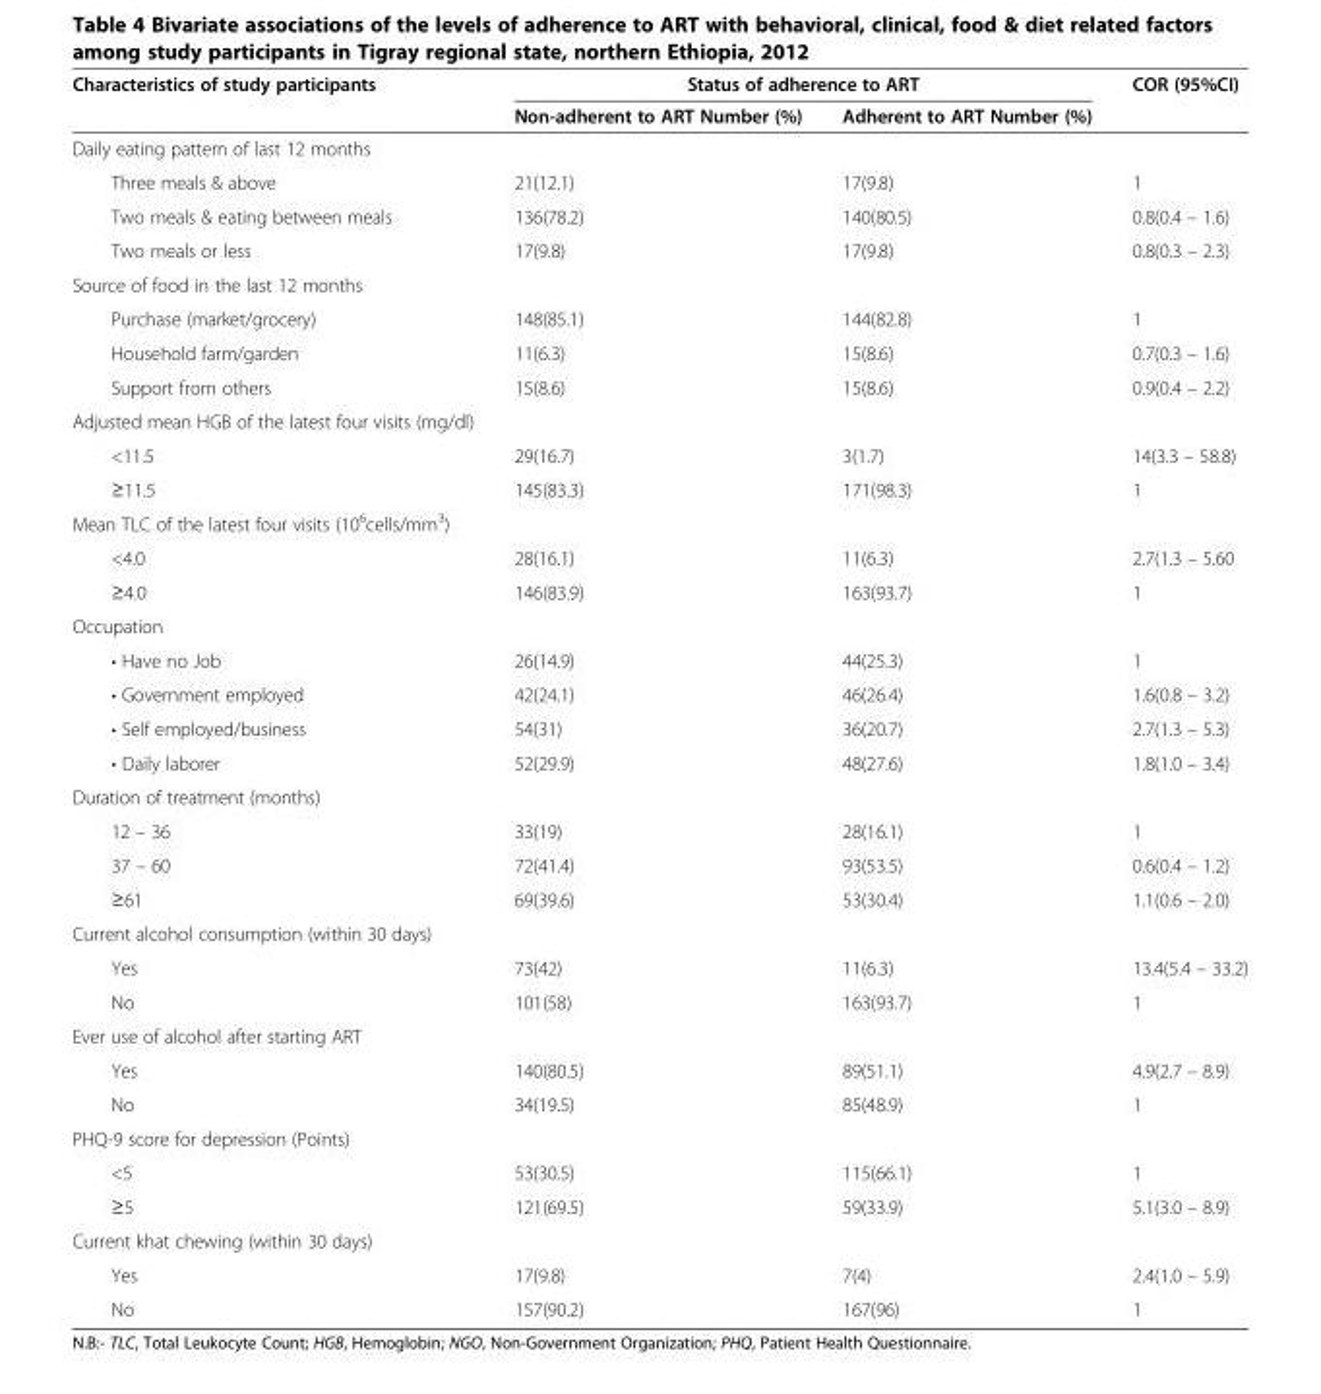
<table><thead><tr><td rowspan="2">Characteristics of study participants</td><td colspan="2">Status of adherence to ART</td><td rowspan="2">COR (95%CI)</td></tr><tr><td>Non-adherent to ART Number (%)</td><td>Adherent to ART Number (%)</td></tr></thead><tbody><tr><td colspan="4">Daily eating pattern of last 12 months</td></tr><tr><td>Three meals &amp; above</td><td>21(12.1)</td><td>17(9.8)</td><td>1</td></tr><tr><td>Two meals &amp; eating between meals</td><td>136(78.2)</td><td>140(80.5)</td><td>0.8(0.4 – 1.6)</td></tr><tr><td>Two meals or less</td><td>17(9.8)</td><td>17(9.8)</td><td>0.8(0.3 – 2.3)</td></tr><tr><td colspan="4">Source of food in the last 12 months</td></tr><tr><td>Purchase (market/grocery)</td><td>148(85.1)</td><td>144(82.8)</td><td>1</td></tr><tr><td>Household farm/garden</td><td>11(6.3)</td><td>15(8.6)</td><td>0.7(0.3 – 1.6)</td></tr><tr><td>Support from others</td><td>15(8.6)</td><td>15(8.6)</td><td>0.9(0.4 – 2.2)</td></tr><tr><td colspan="4">Adjusted mean HGB of the latest four visits (mg/dl)</td></tr><tr><td>&lt;11.5</td><td>29(16.7)</td><td>3(1.7)</td><td>14(3.3 – 58.8)</td></tr><tr><td>≥11.5</td><td>145(83.3)</td><td>171(98.3)</td><td>1</td></tr><tr><td colspan="4">Mean TLC of the latest four visits (10<sup>6</sup>cells/mm<sup>3</sup>)</td></tr><tr><td>&lt;4.0</td><td>28(16.1)</td><td>11(6.3)</td><td>2.7(1.3 – 5.60</td></tr><tr><td>≥4.0</td><td>146(83.9)</td><td>163(93.7)</td><td>1</td></tr><tr><td colspan="4">Occupation</td></tr><tr><td>• Have no Job</td><td>26(14.9)</td><td>44(25.3)</td><td>1</td></tr><tr><td>• Government employed</td><td>42(24.1)</td><td>46(26.4)</td><td>1.6(0.8 – 3.2)</td></tr><tr><td>• Self employed/business</td><td>54(31)</td><td>36(20.7)</td><td>2.7(1.3 – 5.3)</td></tr><tr><td>• Daily laborer</td><td>52(29.9)</td><td>48(27.6)</td><td>1.8(1.0 – 3.4)</td></tr><tr><td colspan="4">Duration of treatment (months)</td></tr><tr><td>12 – 36</td><td>33(19)</td><td>28(16.1)</td><td>1</td></tr><tr><td>37 – 60</td><td>72(41.4)</td><td>93(53.5)</td><td>0.6(0.4 – 1.2)</td></tr><tr><td>≥61</td><td>69(39.6)</td><td>53(30.4)</td><td>1.1(0.6 – 2.0)</td></tr><tr><td colspan="4">Current alcohol consumption (within 30 days)</td></tr><tr><td>Yes</td><td>73(42)</td><td>11(6.3)</td><td>13.4(5.4 – 33.2)</td></tr><tr><td>No</td><td>101(58)</td><td>163(93.7)</td><td>1</td></tr><tr><td colspan="4">Ever use of alcohol after starting ART</td></tr><tr><td>Yes</td><td>140(80.5)</td><td>89(51.1)</td><td>4.9(2.7 – 8.9)</td></tr><tr><td>No</td><td>34(19.5)</td><td>85(48.9)</td><td>1</td></tr><tr><td colspan="4">PHQ-9 score for depression (Points)</td></tr><tr><td>&lt;5</td><td>53(30.5)</td><td>115(66.1)</td><td>1</td></tr><tr><td>≥5</td><td>121(69.5)</td><td>59(33.9)</td><td>5.1(3.0 – 8.9)</td></tr><tr><td colspan="4">Current khat chewing (within 30 days)</td></tr><tr><td>Yes</td><td>17(9.8)</td><td>7(4)</td><td>2.4(1.0 – 5.9)</td></tr><tr><td>No</td><td>157(90.2)</td><td>167(96)</td><td>1</td></tr></tbody></table>